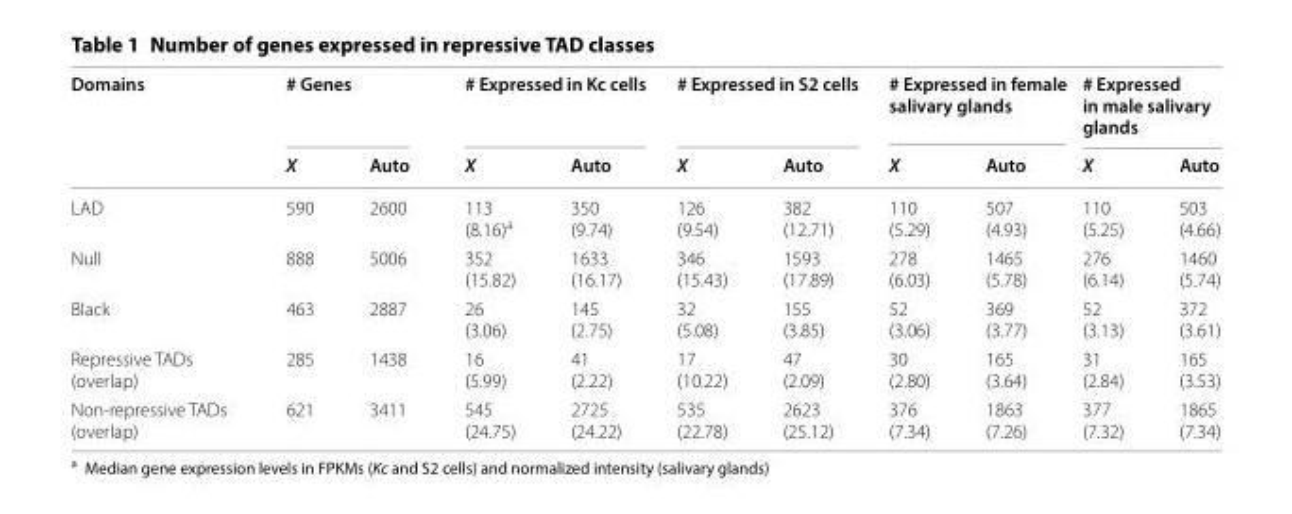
<table><thead><tr><td rowspan="2">Domains</td><td colspan="2"># Genes</td><td colspan="2"># Expressed in Kc cells</td><td colspan="2"># Expressed in S2 cells</td><td colspan="2"># Expressed in female salivary glands</td><td colspan="2"># Expressed in male salivary glands</td></tr><tr><td>X</td><td>Auto</td><td>X</td><td>Auto</td><td>X</td><td>Auto</td><td>X</td><td>Auto</td><td>X</td><td>Auto</td></tr></thead><tbody><tr><td>LAD</td><td>590</td><td>2600</td><td>113 (8.16)<sup>a</sup></td><td>350 (9.74)</td><td>126 (9.54)</td><td>382 (12.71)</td><td>110 (5.29)</td><td>507 (4.93)</td><td>110 (5.25)</td><td>503 (4.66)</td></tr><tr><td>Null</td><td>888</td><td>5006</td><td>352 (15.82)</td><td>1633 (16.17)</td><td>346 (15.43)</td><td>1593 (17.89)</td><td>278 (6.03)</td><td>1465 (5.78)</td><td>276 (6.14)</td><td>1460 (5.74)</td></tr><tr><td>Black</td><td>463</td><td>2887</td><td>26 (3.06)</td><td>145 (2.75)</td><td>32 (5.08)</td><td>155 (3.85)</td><td>52 (3.06)</td><td>369 (3.77)</td><td>52 (3.13)</td><td>372 (3.61)</td></tr><tr><td>Repressive TADs (overlap)</td><td>285</td><td>1438</td><td>16 (5.99)</td><td>41 (2.22)</td><td>17 (10.22)</td><td>47 (2.09)</td><td>30 (2.80)</td><td>165 (3.64)</td><td>31 (2.84)</td><td>165 (3.53)</td></tr><tr><td>Non-repressive TADs (overlap)</td><td>621</td><td>3411</td><td>545 (24.75)</td><td>2725 (24.22)</td><td>535 (22.78)</td><td>2623 (25.12)</td><td>376 (7.34)</td><td>1863 (7.26)</td><td>377 (7.32)</td><td>1865 (7.34)</td></tr></tbody></table>